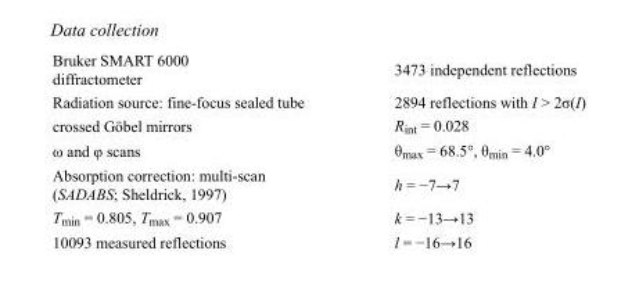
<table><tbody><tr><td>Bruker SMART 6000 diffractometer</td><td>3473 independent reflections</td></tr><tr><td>Radiation source: fine-focus sealed tube</td><td>2894 reflections with I &gt; 2σ(I)</td></tr><tr><td>crossed Göbel mirrors</td><td>R<sub>int</sub> = 0.028</td></tr><tr><td>ω and φ scans</td><td>θ<sub>max</sub> = 68.5°, θ<sub>min</sub> = 4.0°</td></tr><tr><td>Absorption correction: multi-scan (SADABS; Sheldrick, 1997)</td><td>h = −7→7</td></tr><tr><td>T<sub>min</sub> = 0.805, T<sub>max</sub> = 0.907</td><td>k = −13→13</td></tr><tr><td>10093 measured reflections</td><td>l = −16→16</td></tr></tbody></table>